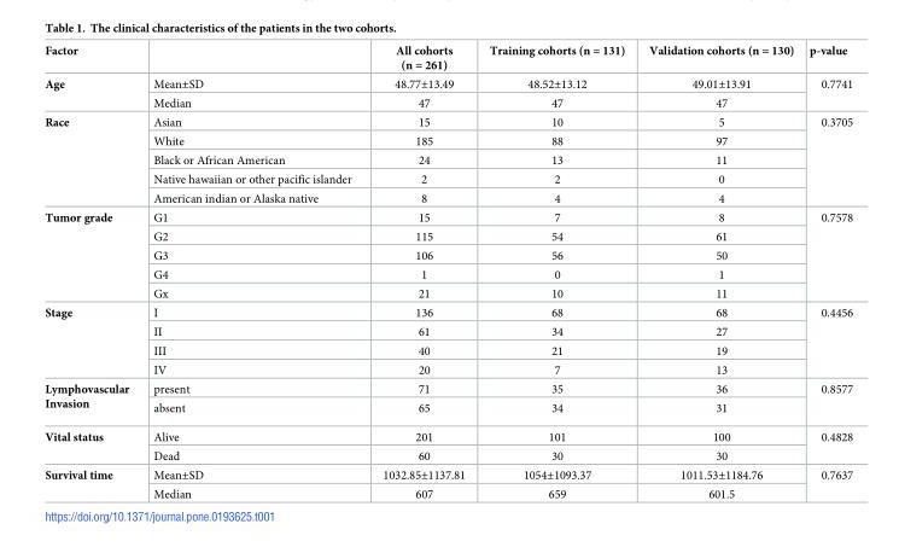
<table><thead><tr><td>Factor</td><td></td><td>All cohorts (n = 261)</td><td>Training cohorts (n = 131)</td><td>Validation cohorts (n = 130)</td><td>p-value</td></tr></thead><tbody><tr><td rowspan="2">Age</td><td>Mean±SD</td><td>48.77±13.49</td><td>48.52±13.12</td><td>49.01±13.91</td><td rowspan="2">0.7741</td></tr><tr><td>Median</td><td>47</td><td>47</td><td>47</td></tr><tr><td rowspan="5">Race</td><td>Asian</td><td>15</td><td>10</td><td>5</td><td rowspan="5">0.3705</td></tr><tr><td>White</td><td>185</td><td>88</td><td>97</td></tr><tr><td>Black or African American</td><td>24</td><td>13</td><td>11</td></tr><tr><td>Native hawaiian or other pacific islander</td><td>2</td><td>2</td><td>0</td></tr><tr><td>American indian or Alaska native</td><td>8</td><td>4</td><td>4</td></tr><tr><td rowspan="5">Tumor grade</td><td>G1</td><td>15</td><td>7</td><td>8</td><td rowspan="5">0.7578</td></tr><tr><td>G2</td><td>115</td><td>54</td><td>61</td></tr><tr><td>G3</td><td>106</td><td>56</td><td>50</td></tr><tr><td>G4</td><td>1</td><td>0</td><td>1</td></tr><tr><td>Gx</td><td>21</td><td>10</td><td>11</td></tr><tr><td rowspan="4">Stage</td><td>I</td><td>136</td><td>68</td><td>68</td><td rowspan="4">0.4456</td></tr><tr><td>II</td><td>61</td><td>34</td><td>27</td></tr><tr><td>III</td><td>40</td><td>21</td><td>19</td></tr><tr><td>IV</td><td>20</td><td>7</td><td>13</td></tr><tr><td rowspan="2">Lymphovascular Invasion</td><td>present</td><td>71</td><td>35</td><td>36</td><td rowspan="2">0.8577</td></tr><tr><td>absent</td><td>65</td><td>34</td><td>31</td></tr><tr><td rowspan="2">Vital status</td><td>Alive</td><td>201</td><td>101</td><td>100</td><td rowspan="2">0.4828</td></tr><tr><td>Dead</td><td>60</td><td>30</td><td>30</td></tr><tr><td rowspan="2">Survival time</td><td>Mean±SD</td><td>1032.85±1137.81</td><td>1054±1093.37</td><td>1011.53±1184.76</td><td rowspan="2">0.7637</td></tr><tr><td>Median</td><td>607</td><td>659</td><td>601.5</td></tr></tbody></table>